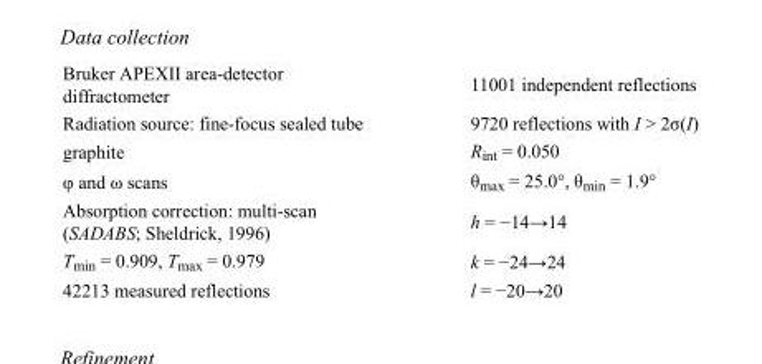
<table><tbody><tr><td>Bruker APEXII area-detector diffractometer</td><td>11001 independent reflections</td></tr><tr><td>Radiation source: fine-focus sealed tube</td><td>9720 reflections with I &gt; 2σ(I)</td></tr><tr><td>graphite</td><td>R<sub>int</sub> = 0.050</td></tr><tr><td>φ and ω scans</td><td>θ<sub>max</sub> = 25.0°, θ<sub>min</sub> = 1.9°</td></tr><tr><td>Absorption correction: multi-scan (SADABS; Sheldrick, 1996)</td><td>h = −14→14</td></tr><tr><td>T<sub>min</sub> = 0.909, T<sub>max</sub> = 0.979</td><td>k = −24→24</td></tr><tr><td>42213 measured reflections</td><td>l = −20→20</td></tr></tbody></table>